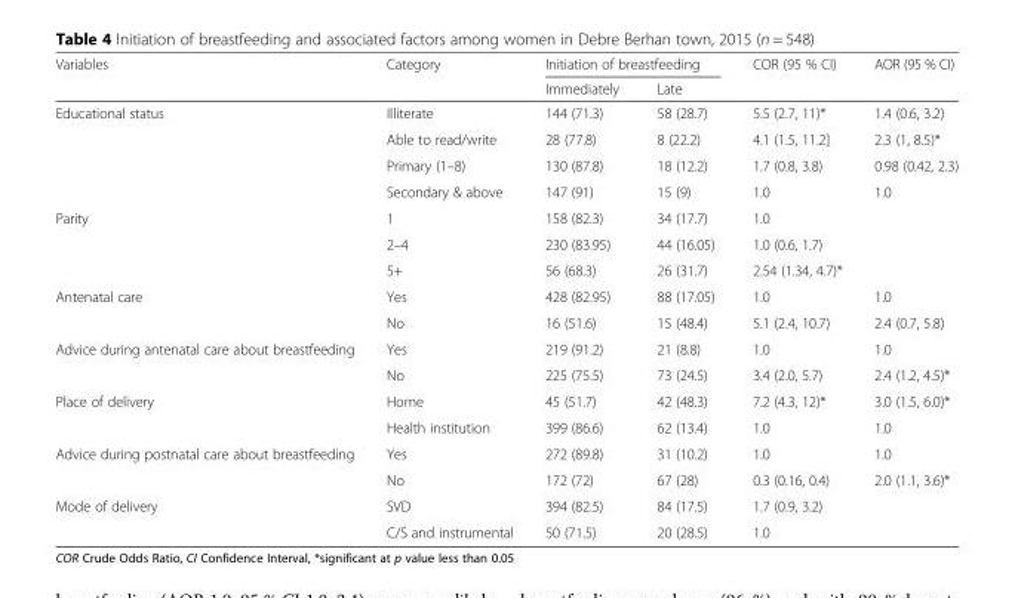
<table><thead><tr><td rowspan="2">Variables</td><td rowspan="2">Category</td><td colspan="2">Initiation of breastfeeding</td><td rowspan="2">COR (95 % CI)</td><td rowspan="2">AOR (95 % CI)</td></tr><tr><td>Immediately</td><td>Late</td></tr></thead><tbody><tr><td rowspan="4">Educational status</td><td>Illiterate</td><td>144 (71.3)</td><td>58 (28.7)</td><td>5.5 (2.7, 11)*</td><td>1.4 (0.6, 3.2)</td></tr><tr><td>Able to read/write</td><td>28 (77.8)</td><td>8 (22.2)</td><td>4.1 (1.5, 11.2]</td><td>2.3 (1, 8.5)*</td></tr><tr><td>Primary (1–8)</td><td>130 (87.8)</td><td>18 (12.2)</td><td>1.7 (0.8, 3.8)</td><td>0.98 (0.42, 2.3)</td></tr><tr><td>Secondary &amp; above</td><td>147 (91)</td><td>15 (9)</td><td>1.0</td><td>1.0</td></tr><tr><td rowspan="3">Parity</td><td>1</td><td>158 (82.3)</td><td>34 (17.7)</td><td>1.0</td><td></td></tr><tr><td>2–4</td><td>230 (83.95)</td><td>44 (16.05)</td><td>1.0 (0.6, 1.7)</td><td></td></tr><tr><td>5+</td><td>56 (68.3)</td><td>26 (31.7)</td><td>2.54 (1.34, 4.7)*</td><td></td></tr><tr><td rowspan="2">Antenatal care</td><td>Yes</td><td>428 (82.95)</td><td>88 (17.05)</td><td>1.0</td><td>1.0</td></tr><tr><td>No</td><td>16 (51.6)</td><td>15 (48.4)</td><td>5.1 (2.4, 10.7)</td><td>2.4 (0.7, 5.8)</td></tr><tr><td rowspan="2">Advice during antenatal care about breastfeeding</td><td>Yes</td><td>219 (91.2)</td><td>21 (8.8)</td><td>1.0</td><td>1.0</td></tr><tr><td>No</td><td>225 (75.5)</td><td>73 (24.5)</td><td>3.4 (2.0, 5.7)</td><td>2.4 (1.2, 4.5)*</td></tr><tr><td rowspan="2">Place of delivery</td><td>Home</td><td>45 (51.7)</td><td>42 (48.3)</td><td>7.2 (4.3, 12)*</td><td>3.0 (1.5, 6.0)*</td></tr><tr><td>Health institution</td><td>399 (86.6)</td><td>62 (13.4)</td><td>1.0</td><td>1.0</td></tr><tr><td rowspan="2">Advice during postnatal care about breastfeeding</td><td>Yes</td><td>272 (89.8)</td><td>31 (10.2)</td><td>1.0</td><td>1.0</td></tr><tr><td>No</td><td>172 (72)</td><td>67 (28)</td><td>0.3 (0.16, 0.4)</td><td>2.0 (1.1, 3.6)*</td></tr><tr><td rowspan="2">Mode of delivery</td><td>SVD</td><td>394 (82.5)</td><td>84 (17.5)</td><td>1.7 (0.9, 3.2)</td><td></td></tr><tr><td>C/S and instrumental</td><td>50 (71.5)</td><td>20 (28.5)</td><td>1.0</td><td></td></tr></tbody></table>